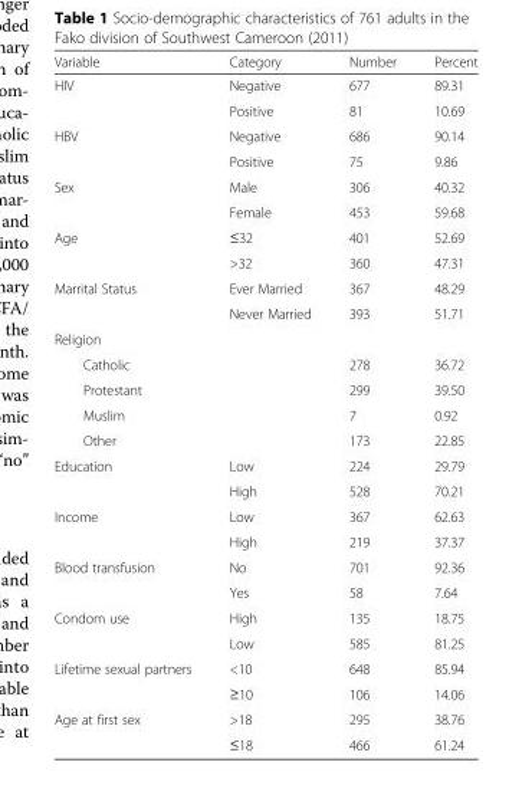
<table><thead><tr><td>Variable</td><td>Category</td><td>Number</td><td>Percent</td></tr></thead><tbody><tr><td rowspan="2">HIV</td><td>Negative</td><td>677</td><td>89.31</td></tr><tr><td>Positive</td><td>81</td><td>10.69</td></tr><tr><td rowspan="2">HBV</td><td>Negative</td><td>686</td><td>90.14</td></tr><tr><td>Positive</td><td>75</td><td>9.86</td></tr><tr><td rowspan="2">Sex</td><td>Male</td><td>306</td><td>40.32</td></tr><tr><td>Female</td><td>453</td><td>59.68</td></tr><tr><td rowspan="2">Age</td><td>≤32</td><td>401</td><td>52.69</td></tr><tr><td>&gt;32</td><td>360</td><td>47.31</td></tr><tr><td rowspan="2">Marrital Status</td><td>Ever Married</td><td>367</td><td>48.29</td></tr><tr><td>Never Married</td><td>393</td><td>51.71</td></tr><tr><td colspan="4">Religion</td></tr><tr><td>Catholic</td><td></td><td>278</td><td>36.72</td></tr><tr><td>Protestant</td><td></td><td>299</td><td>39.50</td></tr><tr><td>Muslim</td><td></td><td>7</td><td>0.92</td></tr><tr><td>Other</td><td></td><td>173</td><td>22.85</td></tr><tr><td rowspan="2">Education</td><td>Low</td><td>224</td><td>29.79</td></tr><tr><td>High</td><td>528</td><td>70.21</td></tr><tr><td rowspan="2">Income</td><td>Low</td><td>367</td><td>62.63</td></tr><tr><td>High</td><td>219</td><td>37.37</td></tr><tr><td rowspan="2">Blood transfusion</td><td>No</td><td>701</td><td>92.36</td></tr><tr><td>Yes</td><td>58</td><td>7.64</td></tr><tr><td rowspan="2">Condom use</td><td>High</td><td>135</td><td>18.75</td></tr><tr><td>Low</td><td>585</td><td>81.25</td></tr><tr><td rowspan="2">Lifetime sexual partners</td><td>&lt;10</td><td>648</td><td>85.94</td></tr><tr><td>≥10</td><td>106</td><td>14.06</td></tr><tr><td rowspan="2">Age at first sex</td><td>&gt;18</td><td>295</td><td>38.76</td></tr><tr><td>≤18</td><td>466</td><td>61.24</td></tr></tbody></table>